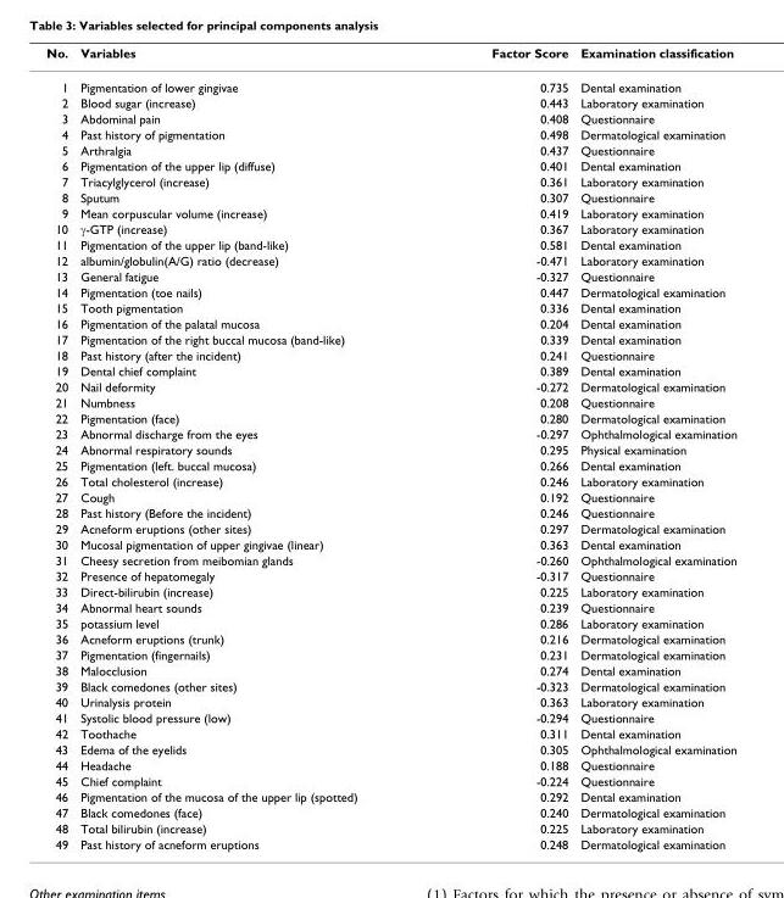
<table><thead><tr><td>No.</td><td>Variables</td><td>Factor Score</td><td>Examination classification</td></tr></thead><tbody><tr><td>1</td><td>Pigmentation of lower gingivae</td><td>0.735</td><td>Dental examination</td></tr><tr><td>2</td><td>Blood sugar (increase)</td><td>0.443</td><td>Laboratory examination</td></tr><tr><td>3</td><td>Abdominal pain</td><td>0.408</td><td>Questionnaire</td></tr><tr><td>4</td><td>Past history of pigmentation</td><td>0.498</td><td>Dermatological examination</td></tr><tr><td>5</td><td>Arthralgia</td><td>0.437</td><td>Questionnaire</td></tr><tr><td>6</td><td>Pigmentation of the upper lip (diffuse)</td><td>0.401</td><td>Dental examination</td></tr><tr><td>7</td><td>Triacylglycerol (increase)</td><td>0.361</td><td>Laboratory examination</td></tr><tr><td>8</td><td>Sputum</td><td>0.307</td><td>Questionnaire</td></tr><tr><td>9</td><td>Mean corpuscular volume (increase)</td><td>0.419</td><td>Laboratory examination</td></tr><tr><td>10</td><td>γ-GTP (increase)</td><td>0.367</td><td>Laboratory examination</td></tr><tr><td>11</td><td>Pigmentation of the upper lip (band-like)</td><td>0.581</td><td>Dental examination</td></tr><tr><td>12</td><td>albumin/globulin(A/G) ratio (decrease)</td><td>-0.471</td><td>Laboratory examination</td></tr><tr><td>13</td><td>General fatigue</td><td>-0.327</td><td>Questionnaire</td></tr><tr><td>14</td><td>Pigmentation (toe nails)</td><td>0.447</td><td>Dermatological examination</td></tr><tr><td>15</td><td>Tooth pigmentation</td><td>0.336</td><td>Dental examination</td></tr><tr><td>16</td><td>Pigmentation of the palatal mucosa</td><td>0.204</td><td>Dental examination</td></tr><tr><td>17</td><td>Pigmentation of the right buccal mucosa (band-like)</td><td>0.339</td><td>Dental examination</td></tr><tr><td>18</td><td>Past history (after the incident)</td><td>0.241</td><td>Questionnaire</td></tr><tr><td>19</td><td>Dental chief complaint</td><td>0.389</td><td>Dental examination</td></tr><tr><td>20</td><td>Nail deformity</td><td>-0.272</td><td>Dermatological examination</td></tr><tr><td>21</td><td>Numbness</td><td>0.208</td><td>Questionnaire</td></tr><tr><td>22</td><td>Pigmentation (face)</td><td>0.280</td><td>Dermatological examination</td></tr><tr><td>23</td><td>Abnormal discharge from the eyes</td><td>-0.297</td><td>Ophthalmological examination</td></tr><tr><td>24</td><td>Abnormal respiratory sounds</td><td>0.295</td><td>Physical examination</td></tr><tr><td>25</td><td>Pigmentation (left. buccal mucosa)</td><td>0.266</td><td>Dental examination</td></tr><tr><td>26</td><td>Total cholesterol (increase)</td><td>0.246</td><td>Laboratory examination</td></tr><tr><td>27</td><td>Cough</td><td>0.192</td><td>Questionnaire</td></tr><tr><td>28</td><td>Past history (Before the incident)</td><td>0.246</td><td>Questionnaire</td></tr><tr><td>29</td><td>Acneform eruptions (other sites)</td><td>0.297</td><td>Dermatological examination</td></tr><tr><td>30</td><td>Mucosal pigmentation of upper gingivae (linear)</td><td>0.363</td><td>Dental examination</td></tr><tr><td>31</td><td>Cheesy secretion from meibomian glands</td><td>-0.260</td><td>Ophthalmological examination</td></tr><tr><td>32</td><td>Presence of hepatomegaly</td><td>-0.317</td><td>Questionnaire</td></tr><tr><td>33</td><td>Direct-bilirubin (increase)</td><td>0.225</td><td>Laboratory examination</td></tr><tr><td>34</td><td>Abnormal heart sounds</td><td>0.239</td><td>Questionnaire</td></tr><tr><td>35</td><td>potassium level</td><td>0.286</td><td>Laboratory examination</td></tr><tr><td>36</td><td>Acneform eruptions (trunk)</td><td>0.216</td><td>Dermatological examination</td></tr><tr><td>37</td><td>Pigmentation (fingernails)</td><td>0.231</td><td>Dermatological examination</td></tr><tr><td>38</td><td>Malocclusion</td><td>0.274</td><td>Dental examination</td></tr><tr><td>39</td><td>Black comedones (other sites)</td><td>-0.323</td><td>Dermatological examination</td></tr><tr><td>40</td><td>Urinalysis protein</td><td>0.363</td><td>Laboratory examination</td></tr><tr><td>41</td><td>Systolic blood pressure (low)</td><td>-0.294</td><td>Questionnaire</td></tr><tr><td>42</td><td>Toothache</td><td>0.311</td><td>Dental examination</td></tr><tr><td>43</td><td>Edema of the eyelids</td><td>0.305</td><td>Ophthalmological examination</td></tr><tr><td>44</td><td>Headache</td><td>0.188</td><td>Questionnaire</td></tr><tr><td>45</td><td>Chief complaint</td><td>-0.224</td><td>Questionnaire</td></tr><tr><td>46</td><td>Pigmentation of the mucosa of the upper lip (spotted)</td><td>0.292</td><td>Dental examination</td></tr><tr><td>47</td><td>Black comedones (face)</td><td>0.240</td><td>Dermatological examination</td></tr><tr><td>48</td><td>Total bilirubin (increase)</td><td>0.225</td><td>Laboratory examination</td></tr><tr><td>49</td><td>Past history of acneform eruptions</td><td>0.248</td><td>Dermatological examination</td></tr></tbody></table>